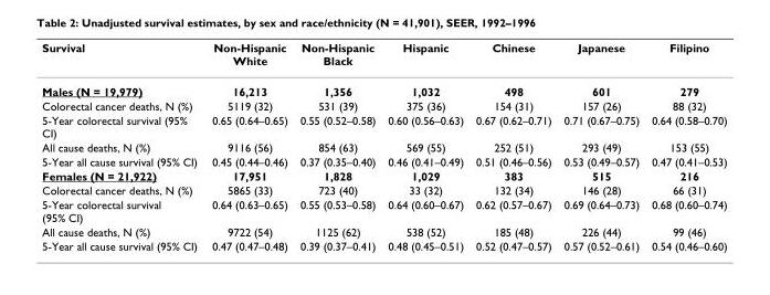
<table><thead><tr><td>Survival</td><td>Non-Hispanic White</td><td>Non-Hispanic Black</td><td>Hispanic</td><td>Chinese</td><td>Japanese</td><td>Filipino</td></tr></thead><tbody><tr><td>Males (N = 19,979)</td><td>16,213</td><td>1,356</td><td>1,032</td><td>498</td><td>601</td><td>279</td></tr><tr><td>Colorectal cancer deaths, N (%)</td><td>5119 (32)</td><td>531 (39)</td><td>375 (36)</td><td>154 (31)</td><td>157 (26)</td><td>88 (32)</td></tr><tr><td>5-Year colorectal survival (95% CI)</td><td>0.65 (0.64–0.65)</td><td>0.55 (0.52–0.58)</td><td>0.60 (0.56–0.63)</td><td>0.67 (0.62–0.71)</td><td>0.71 (0.67–0.75)</td><td>0.64 (0.58–0.70)</td></tr><tr><td>All cause deaths, N (%)</td><td>9116 (56)</td><td>854 (63)</td><td>569 (55)</td><td>252 (51)</td><td>293 (49)</td><td>153 (55)</td></tr><tr><td>5-Year all cause survival (95% CI)</td><td>0.45 (0.44–0.46)</td><td>0.37 (0.35–0.40)</td><td>0.46 (0.41–0.49)</td><td>0.51 (0.46–0.56)</td><td>0.53 (0.49–0.57)</td><td>0.47 (0.41–0.53)</td></tr><tr><td>Females (N = 21,922)</td><td>17,951</td><td>1,828</td><td>1,029</td><td>383</td><td>515</td><td>216</td></tr><tr><td>Colorectal cancer deaths, N (%)</td><td>5865 (33)</td><td>723 (40)</td><td>33 (32)</td><td>132 (34)</td><td>146 (28)</td><td>66 (31)</td></tr><tr><td>5-Year colorectal survival (95% CI)</td><td>0.64 (0.63–0.65)</td><td>0.55 (0.53–0.58)</td><td>0.64 (0.60–0.67)</td><td>0.62 (0.57–0.67)</td><td>0.69 (0.64–0.73)</td><td>0.68 (0.60–0.74)</td></tr><tr><td>All cause deaths, N (%)</td><td>9722 (54)</td><td>1125 (62)</td><td>538 (52)</td><td>185 (48)</td><td>226 (44)</td><td>99 (46)</td></tr><tr><td>5-Year all cause survival (95% CI)</td><td>0.47 (0.47–0.48)</td><td>0.39 (0.37–0.41)</td><td>0.48 (0.45–0.51)</td><td>0.52 (0.47–0.57)</td><td>0.57 (0.52–0.61)</td><td>0.54 (0.46–0.60)</td></tr></tbody></table>